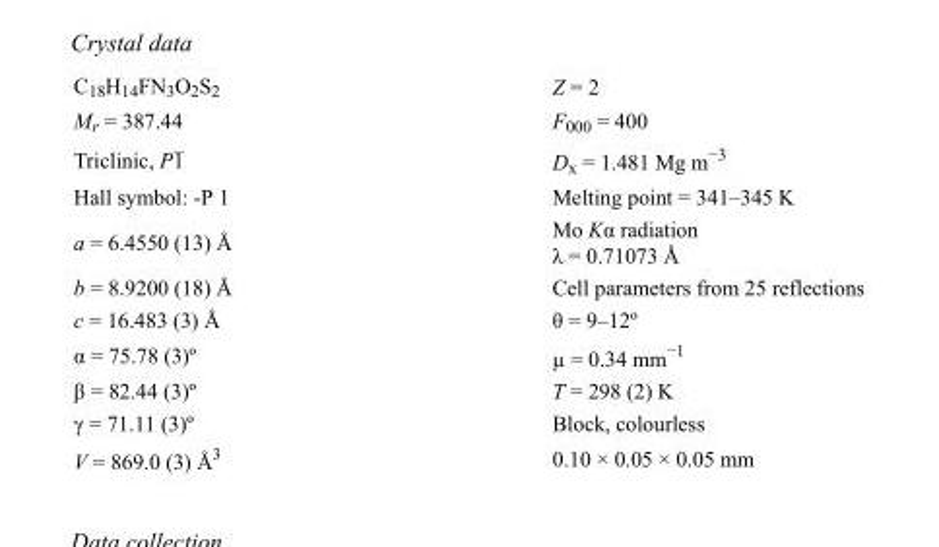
<table><tbody><tr><td>C<sub>18</sub>H<sub>14</sub>FN<sub>3</sub>O<sub>2</sub>S<sub>2</sub></td><td>Z = 2</td></tr><tr><td>M<sub>r</sub> = 387.44</td><td>F<sub>000</sub> = 400</td></tr><tr><td>Triclinic, P1</td><td>D<sub>x</sub> = 1.481 Mg m<sup>−3</sup></td></tr><tr><td>Hall symbol: -P 1</td><td>Melting point = 341–345 K</td></tr><tr><td>a = 6.4550 (13) Å</td><td>Mo Kα radiation λ = 0.71073 Å</td></tr><tr><td>b = 8.9200 (18) Å</td><td>Cell parameters from 25 reflections</td></tr><tr><td>c = 16.483 (3) Å</td><td>θ = 9–12º</td></tr><tr><td>α = 75.78 (3)º</td><td>µ = 0.34 mm<sup>−1</sup></td></tr><tr><td>β = 82.44 (3)º</td><td>T = 298 (2) K</td></tr><tr><td>γ = 71.11 (3)º</td><td>Block, colourless</td></tr><tr><td>V = 869.0 (3) Å<sup>3</sup></td><td>0.10 × 0.05 × 0.05 mm</td></tr></tbody></table>